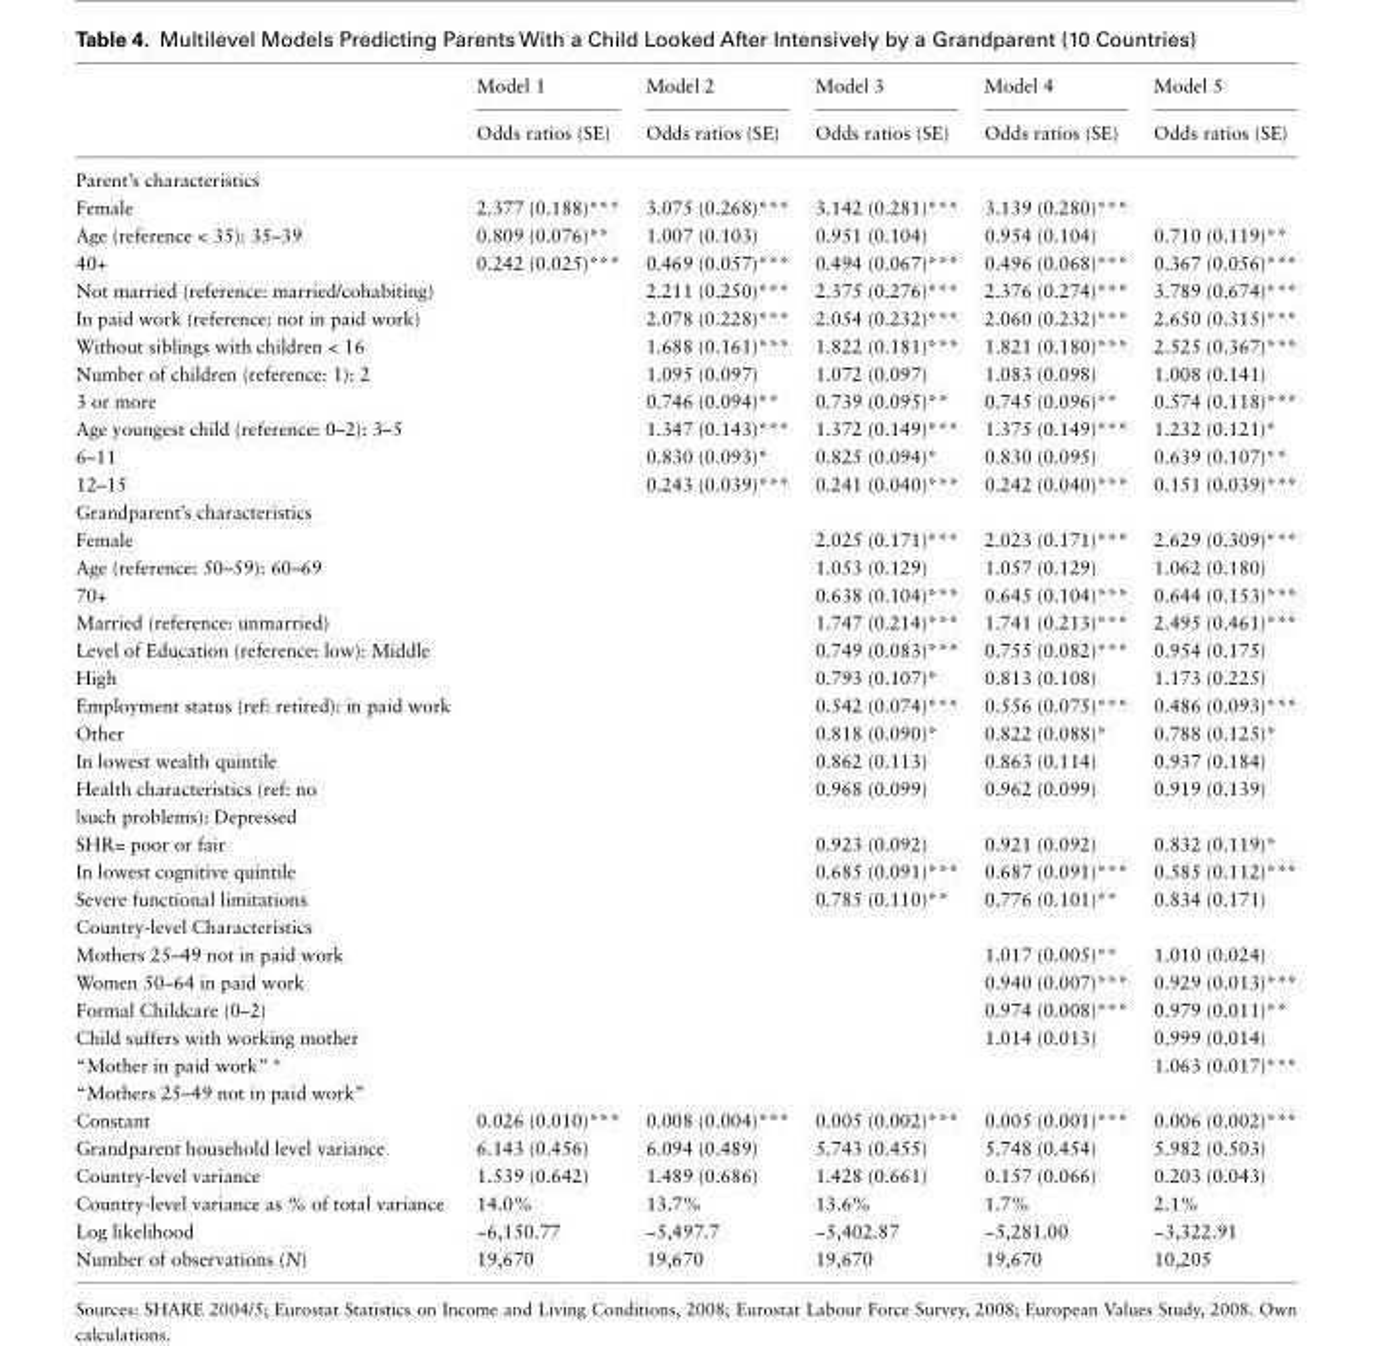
<table><thead><tr><td rowspan="2"></td><td rowspan="2">Model 1 Odds ratios (SE)</td><td rowspan="2">Model 2 Odds ratios (SE)</td><td rowspan="2">Model 3 Odds ratios (SE)</td><td rowspan="2">Model 4 Odds ratios (SE)</td><td rowspan="2">Model 5 Odds ratios (SE)</td></tr><tr></tr></thead><tbody><tr><td colspan="6">Parent’s characteristics</td></tr><tr><td>Female</td><td>2.377 (0.188)***</td><td>3.075 (0.268)***</td><td>3.142 (0.281)***</td><td>3.139 (0.280)***</td><td></td></tr><tr><td>Age (reference &lt; 35): 35–39</td><td>0.809 (0.076)**</td><td>1.007 (0.103)</td><td>0.951 (0.104)</td><td>0.954 (0.104)</td><td>0.710 (0.119)**</td></tr><tr><td>40+</td><td>0.242 (0.025)***</td><td>0.469 (0.057)***</td><td>0.494 (0.067)***</td><td>0.496 (0.068)***</td><td>0.367 (0.056)***</td></tr><tr><td>Not married (reference: married/cohabiting)</td><td></td><td>2.211 (0.250)***</td><td>2.375 (0.276)***</td><td>2.376 (0.274)***</td><td>3.789 (0.674)***</td></tr><tr><td>In paid work (reference: not in paid work)</td><td></td><td>2.078 (0.228)***</td><td>2.054 (0.232)***</td><td>2.060 (0.232)***</td><td>2.650 (0.315)***</td></tr><tr><td>Without siblings with children &lt; 16</td><td></td><td>1.688 (0.161)***</td><td>1.822 (0.181)***</td><td>1.821 (0.180)***</td><td>2.525 (0.367)***</td></tr><tr><td>Number of children (reference: 1): 2</td><td></td><td>1.095 (0.097)</td><td>1.072 (0.097)</td><td>1.083 (0.098)</td><td>1.008 (0.141)</td></tr><tr><td>3 or more</td><td></td><td>0.746 (0.094)**</td><td>0.739 (0.095)**</td><td>0.745 (0.096)**</td><td>0.574 (0.118)***</td></tr><tr><td>Age youngest child (reference: 0–2): 3–5</td><td></td><td>1.347 (0.143)***</td><td>1.372 (0.149)***</td><td>1.375 (0.149)***</td><td>1.232 (0.121)*</td></tr><tr><td>6–11</td><td></td><td>0.830 (0.093)*</td><td>0.825 (0.094)*</td><td>0.830 (0.095)</td><td>0.639 (0.107)**</td></tr><tr><td>12–15</td><td></td><td>0.243 (0.039)***</td><td>0.241 (0.040)***</td><td>0.242 (0.040)***</td><td>0.151 (0.039)***</td></tr><tr><td colspan="6">Grandparent’s characteristics</td></tr><tr><td>Female</td><td></td><td></td><td>2.025 (0.171)***</td><td>2.023 (0.171)***</td><td>2.629 (0.309)***</td></tr><tr><td>Age (reference: 50–59): 60–69</td><td></td><td></td><td>1.053 (0.129)</td><td>1.057 (0.129)</td><td>1.062 (0.180)</td></tr><tr><td>70+</td><td></td><td></td><td>0.638 (0.104)***</td><td>0.645 (0.104)***</td><td>0.644 (0.153)***</td></tr><tr><td>Married (reference: unmarried)</td><td></td><td></td><td>1.747 (0.214)***</td><td>1.741 (0.213)***</td><td>2.495 (0.461)***</td></tr><tr><td>Level of Education (reference: low): Middle</td><td></td><td></td><td>0.749 (0.083)***</td><td>0.755 (0.082)***</td><td>0.954 (0.175)</td></tr><tr><td>High</td><td></td><td></td><td>0.793 (0.107)*</td><td>0.813 (0.108)</td><td>1.173 (0.225)</td></tr><tr><td>Employment status (ref: retired): in paid work</td><td></td><td></td><td>0.542 (0.074)***</td><td>0.556 (0.075)***</td><td>0.486 (0.093)***</td></tr><tr><td>Other</td><td></td><td></td><td>0.818 (0.090)*</td><td>0.822 (0.088)*</td><td>0.788 (0.125)*</td></tr><tr><td>In lowest wealth quintile</td><td></td><td></td><td>0.862 (0.113)</td><td>0.863 (0.114)</td><td>0.937 (0.184)</td></tr><tr><td>Health characteristics (ref: no |such problems): Depressed</td><td></td><td></td><td>0.968 (0.099)</td><td>0.962 (0.099)</td><td>0.919 (0.139)</td></tr><tr><td>SHR= poor or fair</td><td></td><td></td><td>0.923 (0.092)</td><td>0.921 (0.092)</td><td>0.832 (0.119)*</td></tr><tr><td>In lowest cognitive quintile</td><td></td><td></td><td>0.685 (0.091)***</td><td>0.687 (0.091)***</td><td>0.585 (0.112)***</td></tr><tr><td>Severe functional limitations</td><td></td><td></td><td>0.785 (0.110)**</td><td>0.776 (0.101)**</td><td>0.834 (0.171)</td></tr><tr><td colspan="6">Country-level Characteristics</td></tr><tr><td>Mothers 25–49 not in paid work</td><td></td><td></td><td></td><td>1.017 (0.005)**</td><td>1.010 (0.024)</td></tr><tr><td>Women 50–64 in paid work</td><td></td><td></td><td></td><td>0.940 (0.007)***</td><td>0.929 (0.013)***</td></tr><tr><td>Formal Childcare (0–2)</td><td></td><td></td><td></td><td>0.974 (0.008)***</td><td>0.979 (0.011)**</td></tr><tr><td>Child suffers with working mother</td><td></td><td></td><td></td><td>1.014 (0.013)</td><td>0.999 (0.014)</td></tr><tr><td>“Mother in paid work” * “Mothers 25–49 not in paid work”</td><td></td><td></td><td></td><td></td><td>1.063 (0.017)***</td></tr><tr><td>Constant</td><td>0.026 (0.010)***</td><td>0.008 (0.004)***</td><td>0.005 (0.002)***</td><td>0.005 (0.001)***</td><td>0.006 (0.002)***</td></tr><tr><td>Grandparent household level variance</td><td>6.143 (0.456)</td><td>6.094 (0.489)</td><td>5.743 (0.455)</td><td>5.748 (0.454)</td><td>5.982 (0.503)</td></tr><tr><td>Country-level variance</td><td>1.539 (0.642)</td><td>1.489 (0.686)</td><td>1.428 (0.661)</td><td>0.157 (0.066)</td><td>0.203 (0.043)</td></tr><tr><td>Country-level variance as % of total variance</td><td>14.0%</td><td>13.7%</td><td>13.6%</td><td>1.7%</td><td>2.1%</td></tr><tr><td>Log likelihood</td><td>−6,150.77</td><td>−5,497.7</td><td>−5,402.87</td><td>−5,281.00</td><td>−3,322.91</td></tr><tr><td>Number of observations (N)</td><td>19,670</td><td>19,670</td><td>19,670</td><td>19,670</td><td>10,205</td></tr></tbody></table>